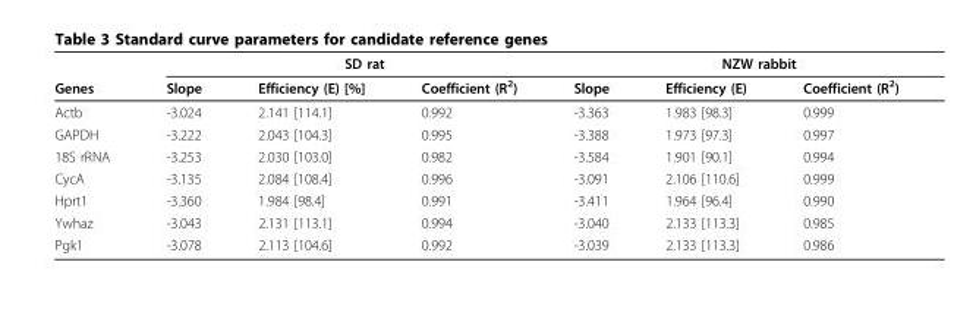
<table><thead><tr><td rowspan="2">Genes</td><td colspan="3">SD rat</td><td colspan="3">NZW rabbit</td></tr><tr><td>Slope</td><td>Efficiency (E) [%]</td><td>Coefficient (R<sup>2</sup>)</td><td>Slope</td><td>Efficiency (E)</td><td>Coefficient (R<sup>2</sup>)</td></tr></thead><tbody><tr><td>Actb</td><td>-3.024</td><td>2.141 [114.1]</td><td>0.992</td><td>-3.363</td><td>1.983 [98.3]</td><td>0.999</td></tr><tr><td>GAPDH</td><td>-3.222</td><td>2.043 [104.3]</td><td>0.995</td><td>-3.388</td><td>1.973 [97.3]</td><td>0.997</td></tr><tr><td>18S rRNA</td><td>-3.253</td><td>2.030 [103.0]</td><td>0.982</td><td>-3.584</td><td>1.901 [90.1]</td><td>0.994</td></tr><tr><td>CycA</td><td>-3.135</td><td>2.084 [108.4]</td><td>0.996</td><td>-3.091</td><td>2.106 [110.6]</td><td>0.999</td></tr><tr><td>Hprt1</td><td>-3.360</td><td>1.984 [98.4]</td><td>0.991</td><td>-3.411</td><td>1.964 [96.4]</td><td>0.990</td></tr><tr><td>Ywhaz</td><td>-3.043</td><td>2.131 [113.1]</td><td>0.994</td><td>-3.040</td><td>2.133 [113.3]</td><td>0.985</td></tr><tr><td>Pgk1</td><td>-3.078</td><td>2.113 [104.6]</td><td>0.992</td><td>-3.039</td><td>2.133 [113.3]</td><td>0.986</td></tr></tbody></table>